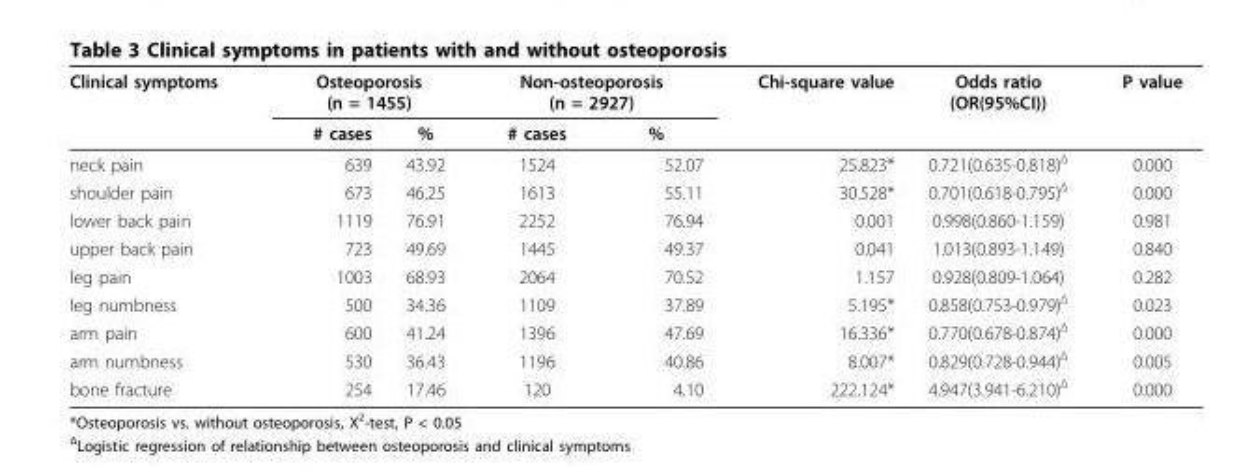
<table><thead><tr><td rowspan="2">Clinical symptoms</td><td colspan="2">Osteoporosis (n = 1455)</td><td colspan="2">Non-osteoporosis (n = 2927)</td><td rowspan="2">Chi-square value</td><td rowspan="2">Odds ratio (OR(95%CI))</td><td rowspan="2">P value</td></tr><tr><td># cases</td><td>%</td><td># cases</td><td>%</td></tr></thead><tbody><tr><td>neck pain</td><td>639</td><td>43.92</td><td>1524</td><td>52.07</td><td>25.823*</td><td>0.721(0.635-0.818)<sup>Δ</sup></td><td>0.000</td></tr><tr><td>shoulder pain</td><td>673</td><td>46.25</td><td>1613</td><td>55.11</td><td>30.528*</td><td>0.701(0.618-0.795)<sup>Δ</sup></td><td>0.000</td></tr><tr><td>lower back pain</td><td>1119</td><td>76.91</td><td>2252</td><td>76.94</td><td>0.001</td><td>0.998(0.860-1.159)</td><td>0.981</td></tr><tr><td>upper back pain</td><td>723</td><td>49.69</td><td>1445</td><td>49.37</td><td>0.041</td><td>1.013(0.893-1.149)</td><td>0.840</td></tr><tr><td>leg pain</td><td>1003</td><td>68.93</td><td>2064</td><td>70.52</td><td>1.157</td><td>0.928(0.809-1.064)</td><td>0.282</td></tr><tr><td>leg numbness</td><td>500</td><td>34.36</td><td>1109</td><td>37.89</td><td>5.195*</td><td>0.858(0.753-0.979)<sup>Δ</sup></td><td>0.023</td></tr><tr><td>arm pain</td><td>600</td><td>41.24</td><td>1396</td><td>47.69</td><td>16.336*</td><td>0.770(0.678-0.874)<sup>Δ</sup></td><td>0.000</td></tr><tr><td>arm numbness</td><td>530</td><td>36.43</td><td>1196</td><td>40.86</td><td>8.007*</td><td>0.829(0.728-0.944)<sup>Δ</sup></td><td>0.005</td></tr><tr><td>bone fracture</td><td>254</td><td>17.46</td><td>120</td><td>4.10</td><td>222.124*</td><td>4.947(3.941-6.210)<sup>Δ</sup></td><td>0.000</td></tr></tbody></table>